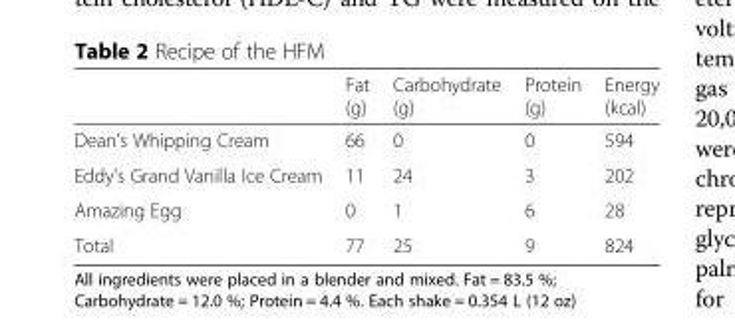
<table><thead><tr><td></td><td>Fat (g)</td><td>Carbohydrate (g)</td><td>Protein (g)</td><td>Energy (kcal)</td></tr></thead><tbody><tr><td>Dean’s Whipping Cream</td><td>66</td><td>0</td><td>0</td><td>594</td></tr><tr><td>Eddy’s Grand Vanilla Ice Cream</td><td>11</td><td>24</td><td>3</td><td>202</td></tr><tr><td>Amazing Egg</td><td>0</td><td>1</td><td>6</td><td>28</td></tr><tr><td>Total</td><td>77</td><td>25</td><td>9</td><td>824</td></tr></tbody></table>